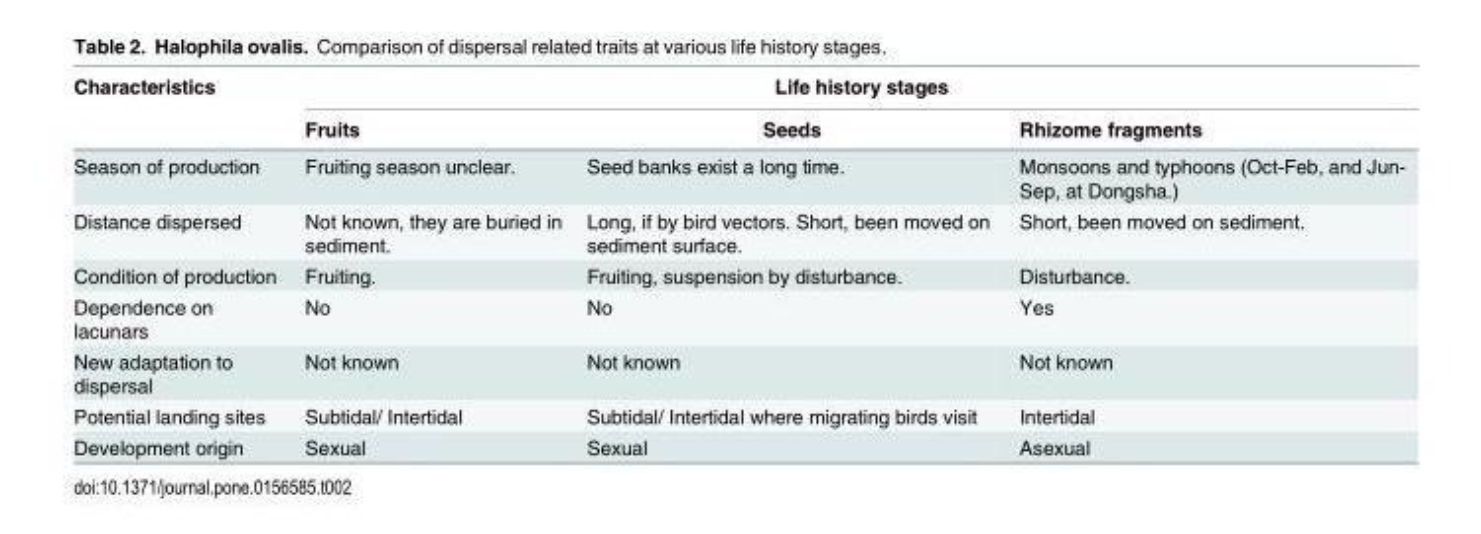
<table><thead><tr><td rowspan="2">Characteristics</td><td colspan="3">Life history stages</td></tr><tr><td>Fruits</td><td>Seeds</td><td>Rhizome fragments</td></tr></thead><tbody><tr><td>Season of production</td><td>Fruiting season unclear.</td><td>Seed banks exist a long time.</td><td>Monsoons and typhoons (Oct-Feb, and Jun- Sep, at Dongsha.)</td></tr><tr><td>Distance dispersed</td><td>Not known, they are buried in sediment.</td><td>Long, if by bird vectors. Short, been moved on sediment surface.</td><td>Short, been moved on sediment.</td></tr><tr><td>Condition of production</td><td>Fruiting.</td><td>Fruiting, suspension by disturbance.</td><td>Disturbance.</td></tr><tr><td>Dependence on lacunars</td><td>No</td><td>No</td><td>Yes</td></tr><tr><td>New adaptation to dispersal</td><td>Not known</td><td>Not known</td><td>Not known</td></tr><tr><td>Potential landing sites</td><td>Subtidal/ Intertidal</td><td>Subtidal/ Intertidal where migrating birds visit</td><td>Intertidal</td></tr><tr><td>Development origin</td><td>Sexual</td><td>Sexual</td><td>Asexual</td></tr></tbody></table>